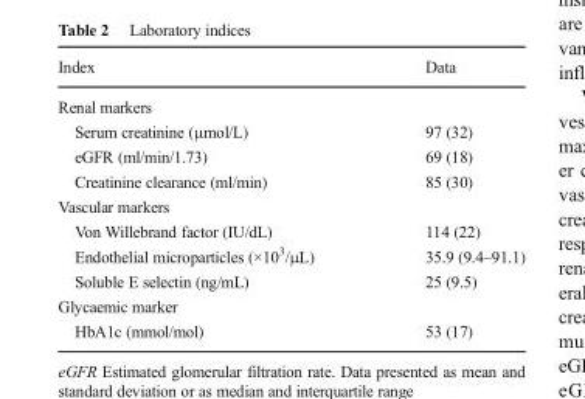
<table><thead><tr><td>Index</td><td>Data</td></tr></thead><tbody><tr><td colspan="2">Renal markers</td></tr><tr><td>Serum creatinine (μmol/L)</td><td>97 (32)</td></tr><tr><td>eGFR (ml/min/1.73)</td><td>69 (18)</td></tr><tr><td>Creatinine clearance (ml/min)</td><td>85 (30)</td></tr><tr><td colspan="2">Vascular markers</td></tr><tr><td>Von Willebrand factor (IU/dL)</td><td>114 (22)</td></tr><tr><td>Endothelial microparticles (×10<sup>3</sup>/μL)</td><td>35.9 (9.4–91.1)</td></tr><tr><td>Soluble E selectin (ng/mL)</td><td>25 (9.5)</td></tr><tr><td colspan="2">Glycaemic marker</td></tr><tr><td>HbA1c (mmol/mol)</td><td>53 (17)</td></tr></tbody></table>